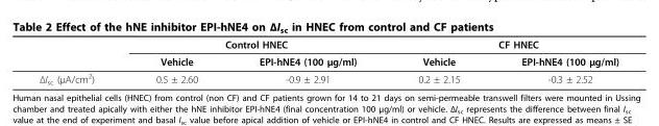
<table><thead><tr><td rowspan="2"></td><td colspan="2">Control HNEC</td><td colspan="2">CF HNEC</td></tr><tr><td>Vehicle</td><td>EPI-hNE4 (100 μg/ml)</td><td>Vehicle</td><td>EPI-hNE4 (100 μg/ml)</td></tr></thead><tbody><tr><td>ΔI<sub>sc</sub> (μA/cm<sup>2</sup>)</td><td>0.5 ± 2.60</td><td>-0.9 ± 2.91</td><td>0.2 ± 2.15</td><td>-0.3 ± 2.52</td></tr></tbody></table>